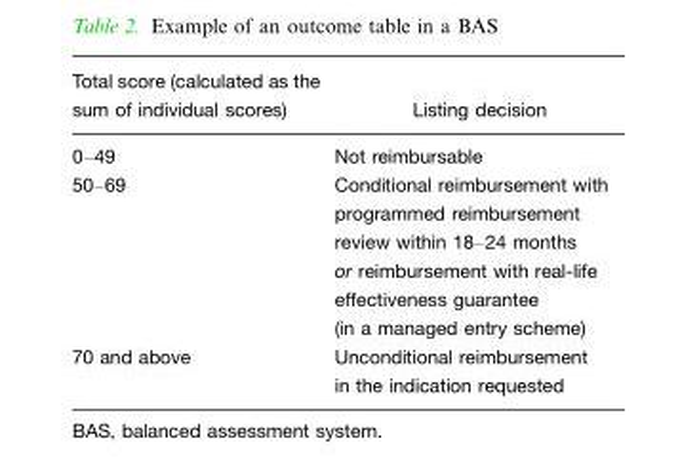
<table><thead><tr><td>Total score (calculated as the sum of individual scores)</td><td>Listing decision</td></tr></thead><tbody><tr><td>0–49</td><td>Not reimbursable</td></tr><tr><td>50–69</td><td>Conditional reimbursement with programmed reimbursement review within 18–24 months or reimbursement with real-life effectiveness guarantee (in a managed entry scheme)</td></tr><tr><td>70 and above</td><td>Unconditional reimbursement in the indication requested</td></tr></tbody></table>